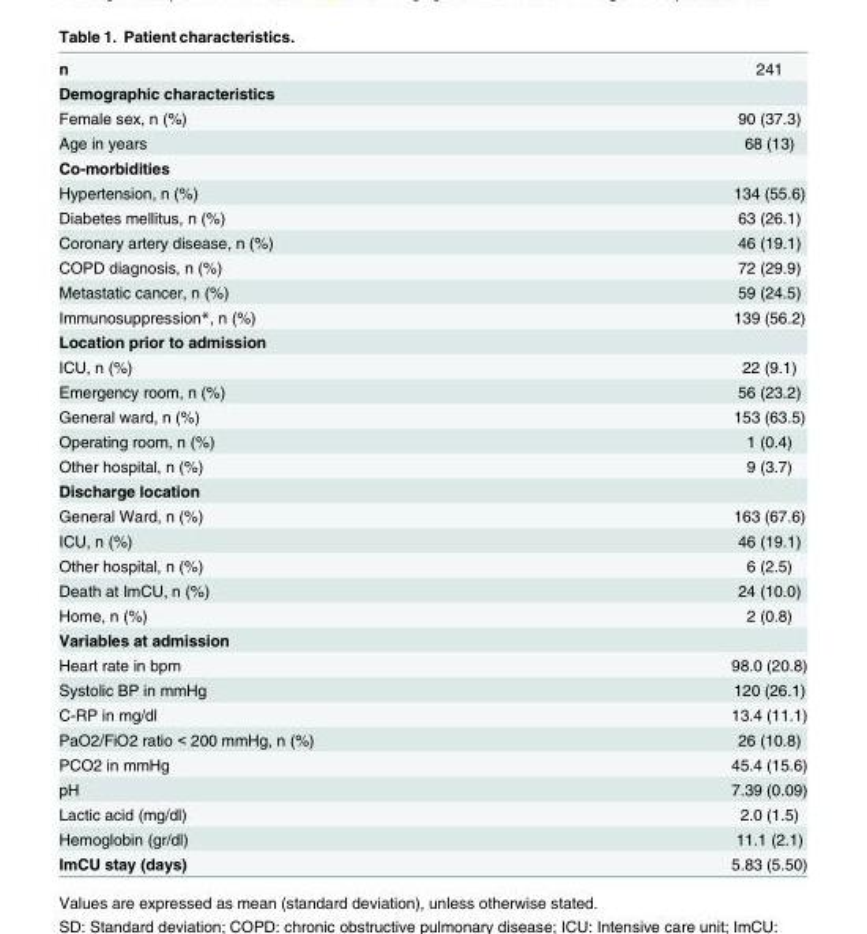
<table><tbody><tr><td>n</td><td>241</td></tr><tr><td colspan="2">Demographic characteristics</td></tr><tr><td>Female sex, n (%)</td><td>90 (37.3)</td></tr><tr><td>Age in years</td><td>68 (13)</td></tr><tr><td colspan="2">Co-morbidities</td></tr><tr><td>Hypertension, n (%)</td><td>134 (55.6)</td></tr><tr><td>Diabetes mellitus, n (%)</td><td>63 (26.1)</td></tr><tr><td>Coronary artery disease, n (%)</td><td>46 (19.1)</td></tr><tr><td>COPD diagnosis, n (%)</td><td>72 (29.9)</td></tr><tr><td>Metastatic cancer, n (%)</td><td>59 (24.5)</td></tr><tr><td>Immunosuppression*, n (%)</td><td>139 (56.2)</td></tr><tr><td colspan="2">Location prior to admission</td></tr><tr><td>ICU, n (%)</td><td>22 (9.1)</td></tr><tr><td>Emergency room, n (%)</td><td>56 (23.2)</td></tr><tr><td>General ward, n (%)</td><td>153 (63.5)</td></tr><tr><td>Operating room, n (%)</td><td>1 (0.4)</td></tr><tr><td>Other hospital, n (%)</td><td>9 (3.7)</td></tr><tr><td colspan="2">Discharge location</td></tr><tr><td>General Ward, n (%)</td><td>163 (67.6)</td></tr><tr><td>ICU, n (%)</td><td>46 (19.1)</td></tr><tr><td>Other hospital, n (%)</td><td>6 (2.5)</td></tr><tr><td>Death at ImCU, n (%)</td><td>24 (10.0)</td></tr><tr><td>Home, n (%)</td><td>2 (0.8)</td></tr><tr><td colspan="2">Variables at admission</td></tr><tr><td>Heart rate in bpm</td><td>98.0 (20.8)</td></tr><tr><td>Systolic BP in mmHg</td><td>120 (26.1)</td></tr><tr><td>C-RP in mg/dl</td><td>13.4 (11.1)</td></tr><tr><td>PaO2/FiO2 ratio &lt; 200 mmHg, n (%)</td><td>26 (10.8)</td></tr><tr><td>PCO2 in mmHg</td><td>45.4 (15.6)</td></tr><tr><td>pH</td><td>7.39 (0.09)</td></tr><tr><td>Lactic acid (mg/dl)</td><td>2.0 (1.5)</td></tr><tr><td>Hemoglobin (gr/dl)</td><td>11.1 (2.1)</td></tr><tr><td>ImCU stay (days)</td><td>5.83 (5.50)</td></tr></tbody></table>